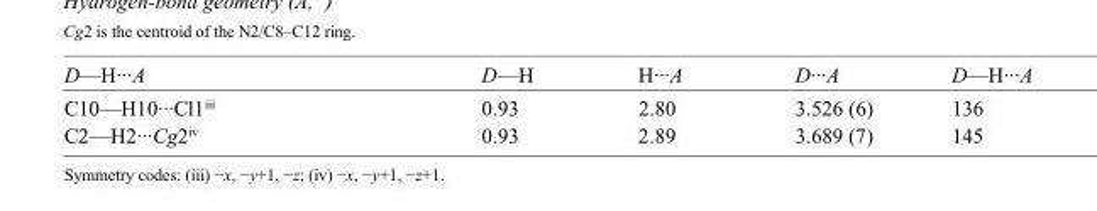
<table><tbody><tr><td>D—H···A</td><td>D—H</td><td>H···A</td><td>D···A</td><td>D—H···A</td></tr><tr><td>C10—H10···Cl1<sup>iii</sup></td><td>0.93</td><td>2.80</td><td>3.526 (6)</td><td>136</td></tr><tr><td>C2—H2···Cg2<sup>iv</sup></td><td>0.93</td><td>2.89</td><td>3.689 (7)</td><td>145</td></tr></tbody></table>